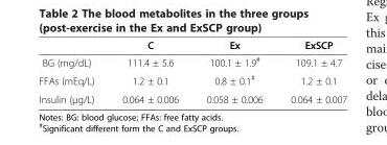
<table><thead><tr><td></td><td>C</td><td>Ex</td><td>ExSCP</td></tr></thead><tbody><tr><td>BG (mg/dL)</td><td>111.4 ± 5.6</td><td>100.1 ± 1.9<sup>#</sup></td><td>109.1 ± 4.7</td></tr><tr><td>FFAs (mEq/L)</td><td>1.2 ± 0.1</td><td>0.8 ± 0.1<sup>#</sup></td><td>1.2 ± 0.1</td></tr><tr><td>Insulin (μg/L)</td><td>0.064 ± 0.006</td><td>0.058 ± 0.006</td><td>0.064 ± 0.007</td></tr></tbody></table>